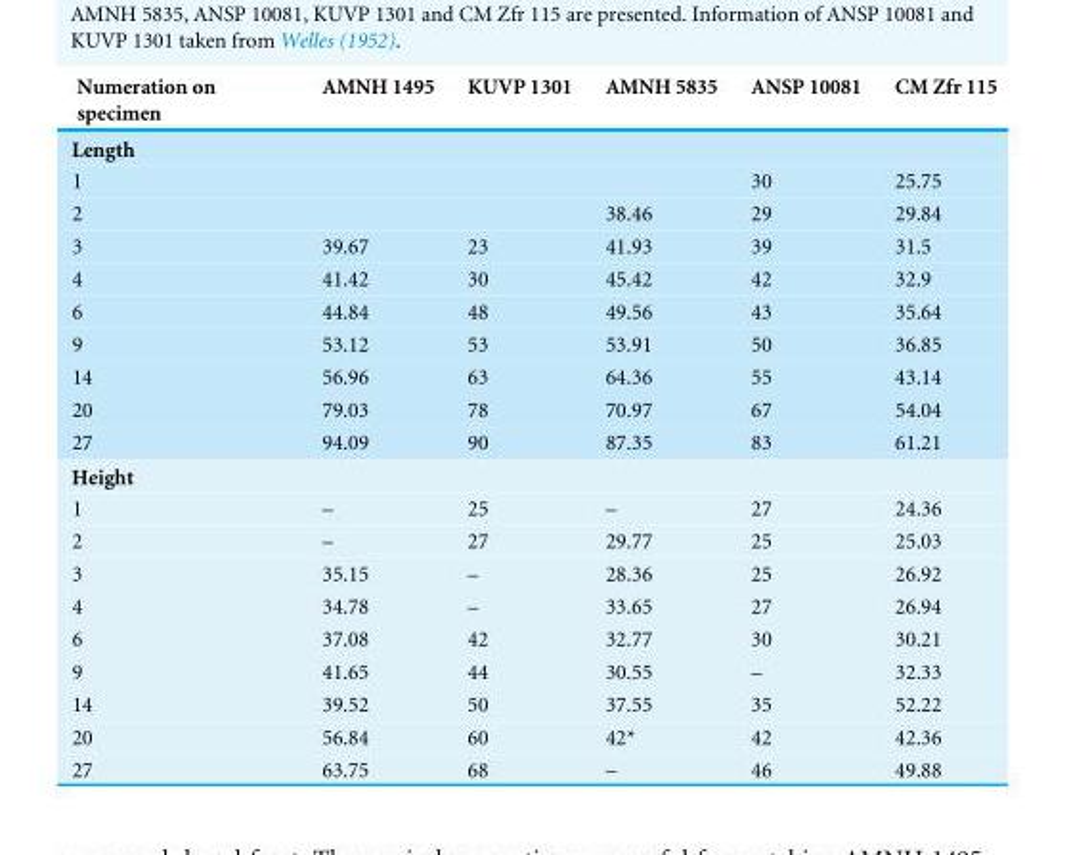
<table><thead><tr><td>Numeration on specimen</td><td>AMNH 1495</td><td>KUVP 1301</td><td>AMNH 5835</td><td>ANSP 10081</td><td>CM Zfr 115</td></tr></thead><tbody><tr><td colspan="6">Length</td></tr><tr><td>1</td><td></td><td></td><td></td><td>30</td><td>25.75</td></tr><tr><td>2</td><td></td><td></td><td>38.46</td><td>29</td><td>29.84</td></tr><tr><td>3</td><td>39.67</td><td>23</td><td>41.93</td><td>39</td><td>31.5</td></tr><tr><td>4</td><td>41.42</td><td>30</td><td>45.42</td><td>42</td><td>32.9</td></tr><tr><td>6</td><td>44.84</td><td>48</td><td>49.56</td><td>43</td><td>35.64</td></tr><tr><td>9</td><td>53.12</td><td>53</td><td>53.91</td><td>50</td><td>36.85</td></tr><tr><td>14</td><td>56.96</td><td>63</td><td>64.36</td><td>55</td><td>43.14</td></tr><tr><td>20</td><td>79.03</td><td>78</td><td>70.97</td><td>67</td><td>54.04</td></tr><tr><td>27</td><td>94.09</td><td>90</td><td>87.35</td><td>83</td><td>61.21</td></tr><tr><td colspan="6">Height</td></tr><tr><td>1</td><td>–</td><td>25</td><td>–</td><td>27</td><td>24.36</td></tr><tr><td>2</td><td>–</td><td>27</td><td>29.77</td><td>25</td><td>25.03</td></tr><tr><td>3</td><td>35.15</td><td>–</td><td>28.36</td><td>25</td><td>26.92</td></tr><tr><td>4</td><td>34.78</td><td>–</td><td>33.65</td><td>27</td><td>26.94</td></tr><tr><td>6</td><td>37.08</td><td>42</td><td>32.77</td><td>30</td><td>30.21</td></tr><tr><td>9</td><td>41.65</td><td>44</td><td>30.55</td><td>–</td><td>32.33</td></tr><tr><td>14</td><td>39.52</td><td>50</td><td>37.55</td><td>35</td><td>52.22</td></tr><tr><td>20</td><td>56.84</td><td>60</td><td>42*</td><td>42</td><td>42.36</td></tr><tr><td>27</td><td>63.75</td><td>68</td><td>–</td><td>46</td><td>49.88</td></tr></tbody></table>